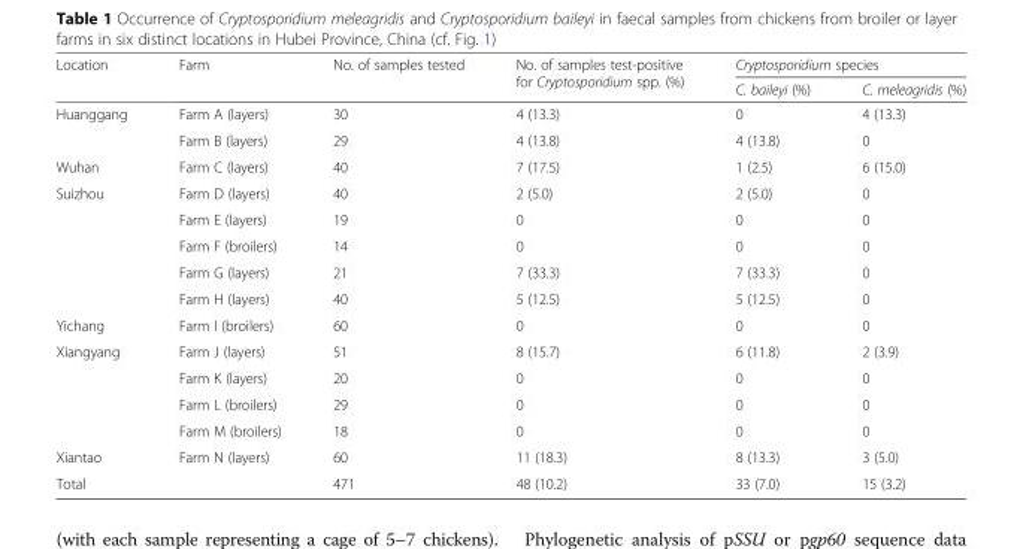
<table><thead><tr><td rowspan="2">Location</td><td rowspan="2">Farm</td><td rowspan="2">No. of samples tested</td><td rowspan="2">No. of samples test-positive for Cryptosporidium spp. (%)</td><td colspan="2">Cryptosporidium species</td></tr><tr><td>C. baileyi (%)</td><td>C. meleagridis (%)</td></tr></thead><tbody><tr><td rowspan="2">Huanggang</td><td>Farm A (layers)</td><td>30</td><td>4 (13.3)</td><td>0</td><td>4 (13.3)</td></tr><tr><td>Farm B (layers)</td><td>29</td><td>4 (13.8)</td><td>4 (13.8)</td><td>0</td></tr><tr><td>Wuhan</td><td>Farm C (layers)</td><td>40</td><td>7 (17.5)</td><td>1 (2.5)</td><td>6 (15.0)</td></tr><tr><td rowspan="5">Suizhou</td><td>Farm D (layers)</td><td>40</td><td>2 (5.0)</td><td>2 (5.0)</td><td>0</td></tr><tr><td>Farm E (layers)</td><td>19</td><td>0</td><td>0</td><td>0</td></tr><tr><td>Farm F (broilers)</td><td>14</td><td>0</td><td>0</td><td>0</td></tr><tr><td>Farm G (layers)</td><td>21</td><td>7 (33.3)</td><td>7 (33.3)</td><td>0</td></tr><tr><td>Farm H (layers)</td><td>40</td><td>5 (12.5)</td><td>5 (12.5)</td><td>0</td></tr><tr><td>Yichang</td><td>Farm I (broilers)</td><td>60</td><td>0</td><td>0</td><td>0</td></tr><tr><td rowspan="4">Xiangyang</td><td>Farm J (layers)</td><td>51</td><td>8 (15.7)</td><td>6 (11.8)</td><td>2 (3.9)</td></tr><tr><td>Farm K (layers)</td><td>20</td><td>0</td><td>0</td><td>0</td></tr><tr><td>Farm L (broilers)</td><td>29</td><td>0</td><td>0</td><td>0</td></tr><tr><td>Farm M (broilers)</td><td>18</td><td>0</td><td>0</td><td>0</td></tr><tr><td>Xiantao</td><td>Farm N (layers)</td><td>60</td><td>11 (18.3)</td><td>8 (13.3)</td><td>3 (5.0)</td></tr><tr><td>Total</td><td></td><td>471</td><td>48 (10.2)</td><td>33 (7.0)</td><td>15 (3.2)</td></tr></tbody></table>